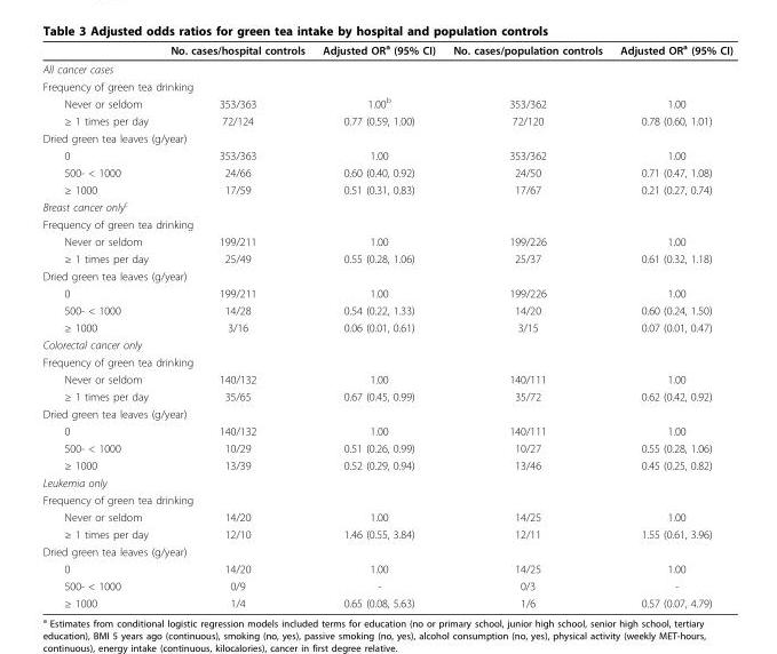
<table><thead><tr><td></td><td>No. cases/hospital controls</td><td>Adjusted OR<sup>a</sup> (95% CI)</td><td>No. cases/population controls</td><td>Adjusted OR<sup>a</sup> (95% CI)</td></tr></thead><tbody><tr><td colspan="5">All cancer cases</td></tr><tr><td colspan="5">Frequency of green tea drinking</td></tr><tr><td>Never or seldom</td><td>353/363</td><td>1.00<sup>b</sup></td><td>353/362</td><td>1.00</td></tr><tr><td>≥ 1 times per day</td><td>72/124</td><td>0.77 (0.59, 1.00)</td><td>72/120</td><td>0.78 (0.60, 1.01)</td></tr><tr><td colspan="5">Dried green tea leaves (g/year)</td></tr><tr><td>0</td><td>353/363</td><td>1.00</td><td>353/362</td><td>1.00</td></tr><tr><td>500- &lt; 1000</td><td>24/66</td><td>0.60 (0.40, 0.92)</td><td>24/50</td><td>0.71 (0.47, 1.08)</td></tr><tr><td>≥ 1000</td><td>17/59</td><td>0.51 (0.31, 0.83)</td><td>17/67</td><td>0.21 (0.27, 0.74)</td></tr><tr><td colspan="5">Breast cancer only<sup>c</sup></td></tr><tr><td colspan="5">Frequency of green tea drinking</td></tr><tr><td>Never or seldom</td><td>199/211</td><td>1.00</td><td>199/226</td><td>1.00</td></tr><tr><td>≥ 1 times per day</td><td>25/49</td><td>0.55 (0.28, 1.06)</td><td>25/37</td><td>0.61 (0.32, 1.18)</td></tr><tr><td colspan="5">Dried green tea leaves (g/year)</td></tr><tr><td>0</td><td>199/211</td><td>1.00</td><td>199/226</td><td>1.00</td></tr><tr><td>500- &lt; 1000</td><td>14/28</td><td>0.54 (0.22, 1.33)</td><td>14/20</td><td>0.60 (0.24, 1.50)</td></tr><tr><td>≥ 1000</td><td>3/16</td><td>0.06 (0.01, 0.61)</td><td>3/15</td><td>0.07 (0.01, 0.47)</td></tr><tr><td colspan="5">Colorectal cancer only</td></tr><tr><td colspan="5">Frequency of green tea drinking</td></tr><tr><td>Never or seldom</td><td>140/132</td><td>1.00</td><td>140/111</td><td>1.00</td></tr><tr><td>≥ 1 times per day</td><td>35/65</td><td>0.67 (0.45, 0.99)</td><td>35/72</td><td>0.62 (0.42, 0.92)</td></tr><tr><td colspan="5">Dried green tea leaves (g/year)</td></tr><tr><td>0</td><td>140/132</td><td>1.00</td><td>140/111</td><td>1.00</td></tr><tr><td>500- &lt; 1000</td><td>10/29</td><td>0.51 (0.26, 0.99)</td><td>10/27</td><td>0.55 (0.28, 1.06)</td></tr><tr><td>≥ 1000</td><td>13/39</td><td>0.52 (0.29, 0.94)</td><td>13/46</td><td>0.45 (0.25, 0.82)</td></tr><tr><td colspan="5">Leukemia only</td></tr><tr><td colspan="5">Frequency of green tea drinking</td></tr><tr><td>Never or seldom</td><td>14/20</td><td>1.00</td><td>14/25</td><td>1.00</td></tr><tr><td>≥ 1 times per day</td><td>12/10</td><td>1.46 (0.55, 3.84)</td><td>12/11</td><td>1.55 (0.61, 3.96)</td></tr><tr><td colspan="5">Dried green tea leaves (g/year)</td></tr><tr><td>0</td><td>14/20</td><td>1.00</td><td>14/25</td><td>1.00</td></tr><tr><td>500- &lt; 1000</td><td>0/9</td><td>-</td><td>0/3</td><td>-</td></tr><tr><td>≥ 1000</td><td>1/4</td><td>0.65 (0.08, 5.63)</td><td>1/6</td><td>0.57 (0.07, 4.79)</td></tr></tbody></table>